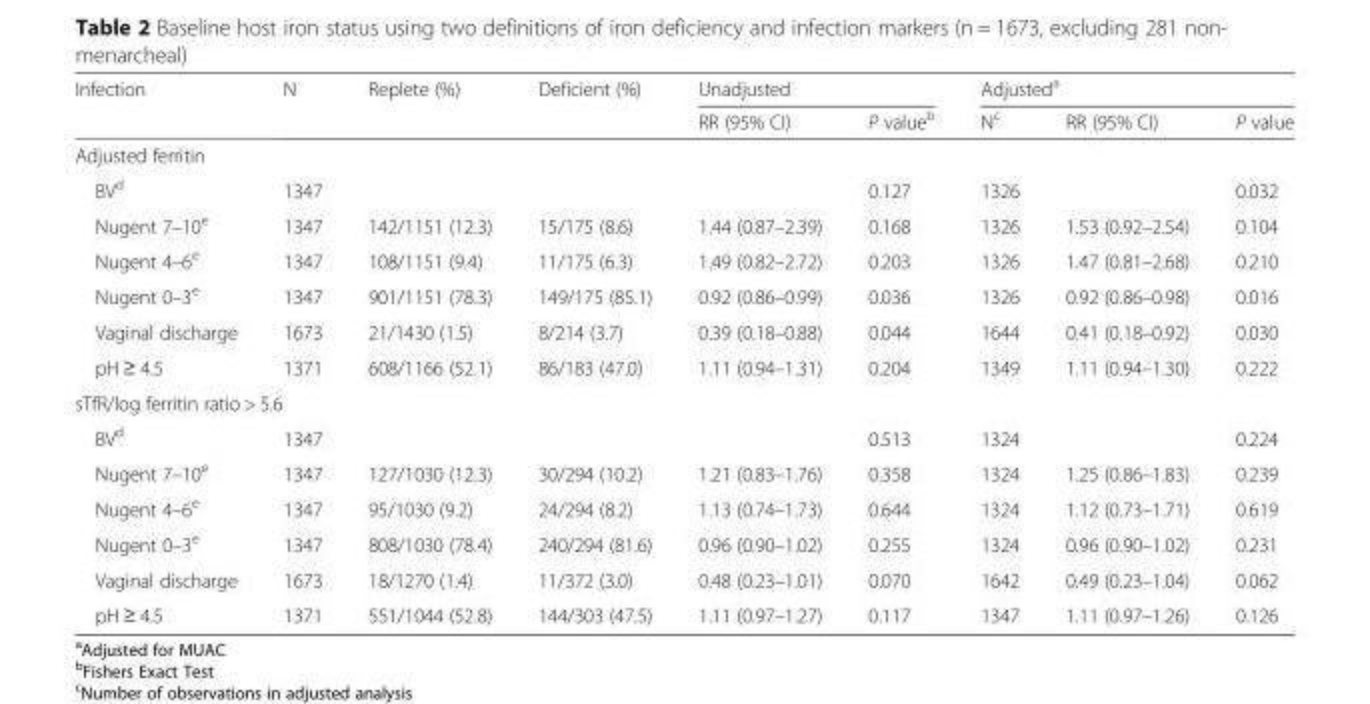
<table><thead><tr><td rowspan="2">Infection</td><td rowspan="2">N</td><td rowspan="2">Replete (%)</td><td rowspan="2">Deficient (%)</td><td colspan="2">Unadjusted</td><td colspan="3">Adjusted<sup>a</sup></td></tr><tr><td>RR (95% CI)</td><td>P value<sup>b</sup></td><td>N<sup>c</sup></td><td>RR (95% CI)</td><td>P value</td></tr></thead><tbody><tr><td colspan="9">Adjusted ferritin</td></tr><tr><td>BV<sup>d</sup></td><td>1347</td><td></td><td></td><td></td><td>0.127</td><td>1326</td><td></td><td>0.032</td></tr><tr><td>Nugent 7–10<sup>e</sup></td><td>1347</td><td>142/1151 (12.3)</td><td>15/175 (8.6)</td><td>1.44 (0.87–2.39)</td><td>0.168</td><td>1326</td><td>1.53 (0.92–2.54)</td><td>0.104</td></tr><tr><td>Nugent 4–6<sup>e</sup></td><td>1347</td><td>108/1151 (9.4)</td><td>11/175 (6.3)</td><td>1.49 (0.82–2.72)</td><td>0.203</td><td>1326</td><td>1.47 (0.81–2.68)</td><td>0.210</td></tr><tr><td>Nugent 0–3<sup>e</sup></td><td>1347</td><td>901/1151 (78.3)</td><td>149/175 (85.1)</td><td>0.92 (0.86–0.99)</td><td>0.036</td><td>1326</td><td>0.92 (0.86–0.98)</td><td>0.016</td></tr><tr><td>Vaginal discharge</td><td>1673</td><td>21/1430 (1.5)</td><td>8/214 (3.7)</td><td>0.39 (0.18–0.88)</td><td>0.044</td><td>1644</td><td>0.41 (0.18–0.92)</td><td>0.030</td></tr><tr><td>pH ≥ 4.5</td><td>1371</td><td>608/1166 (52.1)</td><td>86/183 (47.0)</td><td>1.11 (0.94–1.31)</td><td>0.204</td><td>1349</td><td>1.11 (0.94–1.30)</td><td>0.222</td></tr><tr><td colspan="9">sTfR/log ferritin ratio &gt; 5.6</td></tr><tr><td>BV<sup>d</sup></td><td>1347</td><td></td><td></td><td></td><td>0.513</td><td>1324</td><td></td><td>0.224</td></tr><tr><td>Nugent 7–10<sup>e</sup></td><td>1347</td><td>127/1030 (12.3)</td><td>30/294 (10.2)</td><td>1.21 (0.83–1.76)</td><td>0.358</td><td>1324</td><td>1.25 (0.86–1.83)</td><td>0.239</td></tr><tr><td>Nugent 4–6<sup>e</sup></td><td>1347</td><td>95/1030 (9.2)</td><td>24/294 (8.2)</td><td>1.13 (0.74–1.73)</td><td>0.644</td><td>1324</td><td>1.12 (0.73–1.71)</td><td>0.619</td></tr><tr><td>Nugent 0–3<sup>e</sup></td><td>1347</td><td>808/1030 (78.4)</td><td>240/294 (81.6)</td><td>0.96 (0.90–1.02)</td><td>0.255</td><td>1324</td><td>0.96 (0.90–1.02)</td><td>0.231</td></tr><tr><td>Vaginal discharge</td><td>1673</td><td>18/1270 (1.4)</td><td>11/372 (3.0)</td><td>0.48 (0.23–1.01)</td><td>0.070</td><td>1642</td><td>0.49 (0.23–1.04)</td><td>0.062</td></tr><tr><td>pH ≥ 4.5</td><td>1371</td><td>551/1044 (52.8)</td><td>144/303 (47.5)</td><td>1.11 (0.97–1.27)</td><td>0.117</td><td>1347</td><td>1.11 (0.97–1.26)</td><td>0.126</td></tr></tbody></table>